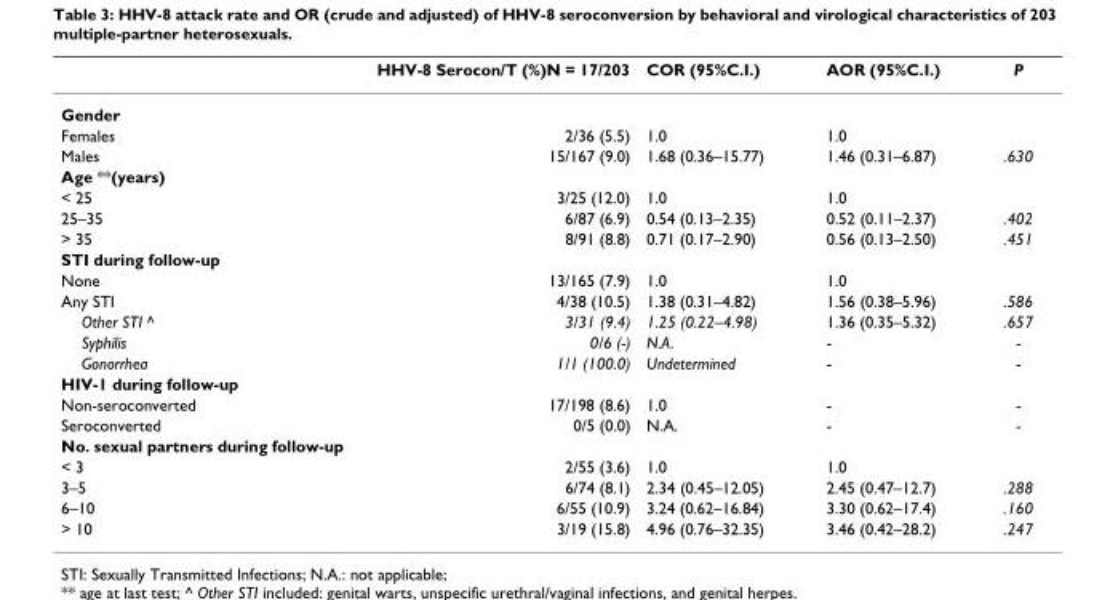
<table><thead><tr><td></td><td>HHV-8 Serocon/T (%)N = 17/203</td><td>COR (95%C.I.)</td><td>AOR (95%C.I.)</td><td>P</td></tr></thead><tbody><tr><td colspan="5">Gender</td></tr><tr><td>Females</td><td>2/36 (5.5)</td><td>1.0</td><td>1.0</td><td></td></tr><tr><td>Males</td><td>15/167 (9.0)</td><td>1.68 (0.36–15.77)</td><td>1.46 (0.31–6.87)</td><td>.630</td></tr><tr><td colspan="5">Age **(years)</td></tr><tr><td>&lt; 25</td><td>3/25 (12.0)</td><td>1.0</td><td>1.0</td><td></td></tr><tr><td>25–35</td><td>6/87 (6.9)</td><td>0.54 (0.13–2.35)</td><td>0.52 (0.11–2.37)</td><td>.402</td></tr><tr><td>&gt; 35</td><td>8/91 (8.8)</td><td>0.71 (0.17–2.90)</td><td>0.56 (0.13–2.50)</td><td>.451</td></tr><tr><td colspan="5">STI during follow-up</td></tr><tr><td>None</td><td>13/165 (7.9)</td><td>1.0</td><td>1.0</td><td></td></tr><tr><td>Any STI</td><td>4/38 (10.5)</td><td>1.38 (0.31–4.82)</td><td>1.56 (0.38–5.96)</td><td>.586</td></tr><tr><td>Other STI ^</td><td>3/31 (9.4)</td><td>1.25 (0.22–4.98)</td><td>1.36 (0.35–5.32)</td><td>.657</td></tr><tr><td>Syphilis</td><td>0/6 (-)</td><td>N.A.</td><td>-</td><td>-</td></tr><tr><td>Gonorrhea</td><td>1/1 (100.0)</td><td>Undetermined</td><td>-</td><td>-</td></tr><tr><td colspan="5">HIV-1 during follow-up</td></tr><tr><td>Non-seroconverted</td><td>17/198 (8.6)</td><td>1.0</td><td>-</td><td>-</td></tr><tr><td>Seroconverted</td><td>0/5 (0.0)</td><td>N.A.</td><td>-</td><td>-</td></tr><tr><td colspan="5">No. sexual partners during follow-up</td></tr><tr><td>&lt; 3</td><td>2/55 (3.6)</td><td>1.0</td><td>1.0</td><td></td></tr><tr><td>3–5</td><td>6/74 (8.1)</td><td>2.34 (0.45–12.05)</td><td>2.45 (0.47–12.7)</td><td>.288</td></tr><tr><td>6–10</td><td>6/55 (10.9)</td><td>3.24 (0.62–16.84)</td><td>3.30 (0.62–17.4)</td><td>.160</td></tr><tr><td>&gt; 10</td><td>3/19 (15.8)</td><td>4.96 (0.76–32.35)</td><td>3.46 (0.42–28.2)</td><td>.247</td></tr></tbody></table>